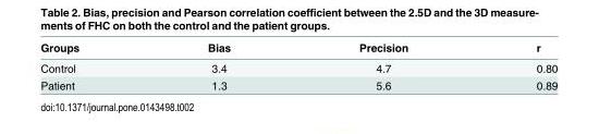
<table><thead><tr><td>Groups</td><td>Bias</td><td>Precision</td><td>r</td></tr></thead><tbody><tr><td>Control</td><td>3.4</td><td>4.7</td><td>0.80</td></tr><tr><td>Patient</td><td>1.3</td><td>5.6</td><td>0.89</td></tr></tbody></table>